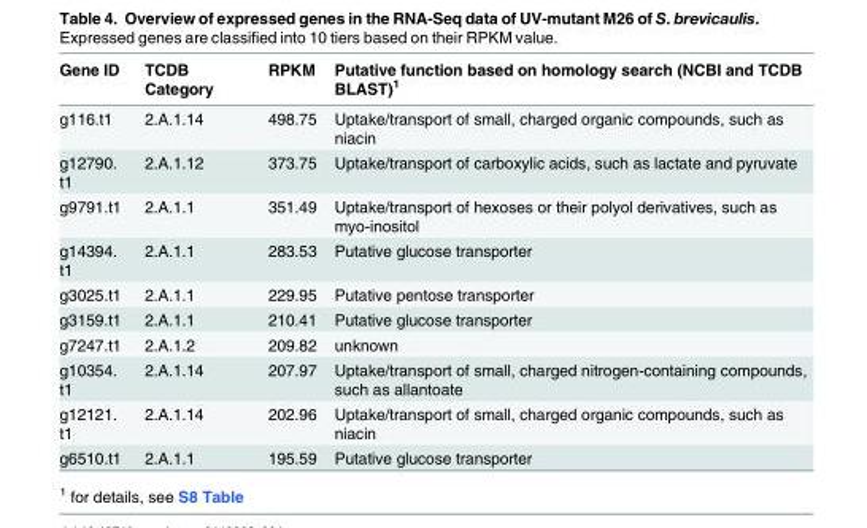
<table><thead><tr><td>Gene ID</td><td>TCDB Category</td><td>RPKM</td><td>Putative function based on homology search (NCBI and TCDB BLAST)<sup>1</sup></td></tr></thead><tbody><tr><td>g116.t1</td><td>2.A.1.14</td><td>498.75</td><td>Uptake/transport of small, charged organic compounds, such as niacin</td></tr><tr><td>g12790. t1</td><td>2.A.1.12</td><td>373.75</td><td>Uptake/transport of carboxylic acids, such as lactate and pyruvate</td></tr><tr><td>g9791.t1</td><td>2.A.1.1</td><td>351.49</td><td>Uptake/transport of hexoses or their polyol derivatives, such as myo-inositol</td></tr><tr><td>g14394. t1</td><td>2.A.1.1</td><td>283.53</td><td>Putative glucose transporter</td></tr><tr><td>g3025.t1</td><td>2.A.1.1</td><td>229.95</td><td>Putative pentose transporter</td></tr><tr><td>g3159.t1</td><td>2.A.1.1</td><td>210.41</td><td>Putative glucose transporter</td></tr><tr><td>g7247.t1</td><td>2.A.1.2</td><td>209.82</td><td>unknown</td></tr><tr><td>g10354. t1</td><td>2.A.1.14</td><td>207.97</td><td>Uptake/transport of small, charged nitrogen-containing compounds, such as allantoate</td></tr><tr><td>g12121. t1</td><td>2.A.1.14</td><td>202.96</td><td>Uptake/transport of small, charged organic compounds, such as niacin</td></tr><tr><td>g6510.t1</td><td>2.A.1.1</td><td>195.59</td><td>Putative glucose transporter</td></tr></tbody></table>